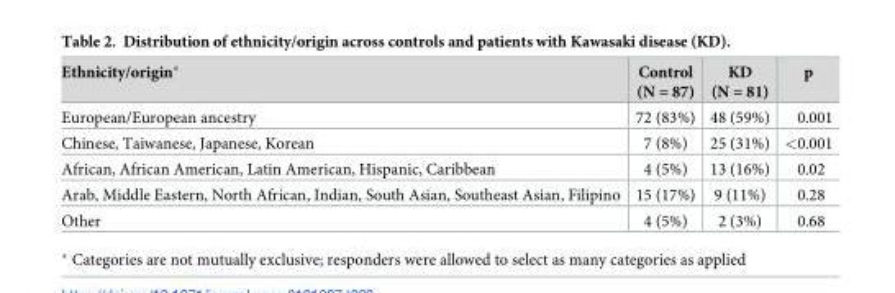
<table><thead><tr><td>Ethnicity/origin*</td><td>Control (N = 87)</td><td>KD (N = 81)</td><td>p</td></tr></thead><tbody><tr><td>European/European ancestry</td><td>72 (83%)</td><td>48 (59%)</td><td>0.001</td></tr><tr><td>Chinese, Taiwanese, Japanese, Korean</td><td>7 (8%)</td><td>25 (31%)</td><td>&lt;0.001</td></tr><tr><td>African, African American, Latin American, Hispanic, Caribbean</td><td>4 (5%)</td><td>13 (16%)</td><td>0.02</td></tr><tr><td>Arab, Middle Eastern, North African, Indian, South Asian, Southeast Asian, Filipino</td><td>15 (17%)</td><td>9 (11%)</td><td>0.28</td></tr><tr><td>Other</td><td>4 (5%)</td><td>2 (3%)</td><td>0.68</td></tr></tbody></table>